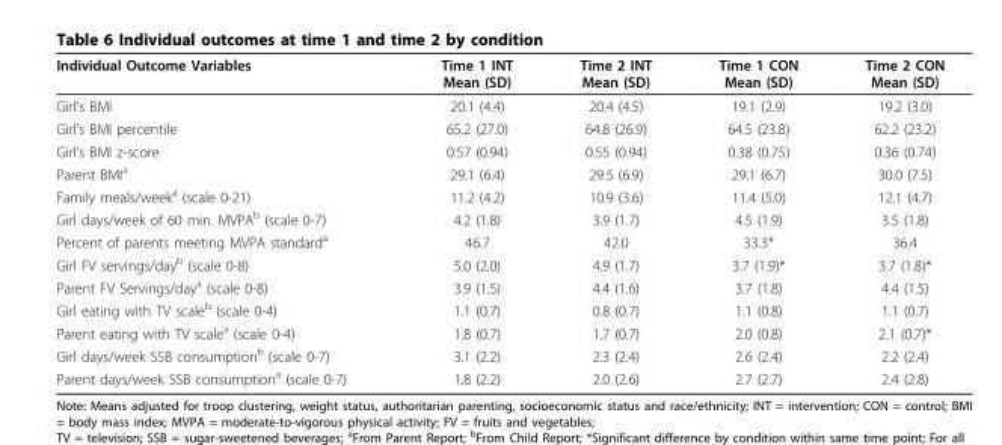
<table><thead><tr><td>Individual Outcome Variables</td><td>Time 1 INT Mean (SD)</td><td>Time 2 INT Mean (SD)</td><td>Time 1 CON Mean (SD)</td><td>Time 2 CON Mean (SD)</td></tr></thead><tbody><tr><td>Girl’s BMI</td><td>20.1 (4.4)</td><td>20.4 (4.5)</td><td>19.1 (2.9)</td><td>19.2 (3.0)</td></tr><tr><td>Girl’s BMI percentile</td><td>65.2 (27.0)</td><td>64.8 (26.9)</td><td>64.5 (23.8)</td><td>62.2 (23.2)</td></tr><tr><td>Girl’s BMI z-score</td><td>0.57 (0.94)</td><td>0.55 (0.94)</td><td>0.38 (0.75)</td><td>0.36 (0.74)</td></tr><tr><td>Parent BMI<sup>a</sup></td><td>29.1 (6.4)</td><td>29.5 (6.9)</td><td>29.1 (6.7)</td><td>30.0 (7.5)</td></tr><tr><td>Family meals/week<sup>a</sup> (scale 0-21)</td><td>11.2 (4.2)</td><td>10.9 (3.6)</td><td>11.4 (5.0)</td><td>12.1 (4.7)</td></tr><tr><td>Girl days/week of 60 min. MVPA<sup>b</sup> (scale 0-7)</td><td>4.2 (1.8)</td><td>3.9 (1.7)</td><td>4.5 (1.9)</td><td>3.5 (1.8)</td></tr><tr><td>Percent of parents meeting MVPA standard<sup>a</sup></td><td>46.7</td><td>42.0</td><td>33.3*</td><td>36.4</td></tr><tr><td>Girl FV servings/day<sup>b</sup> (scale 0-8)</td><td>5.0 (2.0)</td><td>4.9 (1.7)</td><td>3.7 (1.9)*</td><td>3.7 (1.8)*</td></tr><tr><td>Parent FV Servings/day<sup>a</sup> (scale 0-8)</td><td>3.9 (1.5)</td><td>4.4 (1.6)</td><td>3.7 (1.8)</td><td>4.4 (1.5)</td></tr><tr><td>Girl eating with TV scale<sup>b</sup> (scale 0-4)</td><td>1.1 (0.7)</td><td>0.8 (0.7)</td><td>1.1 (0.8)</td><td>1.1 (0.7)</td></tr><tr><td>Parent eating with TV scale<sup>a</sup> (scale 0-4)</td><td>1.8 (0.7)</td><td>1.7 (0.7)</td><td>2.0 (0.8)</td><td>2.1 (0.7)*</td></tr><tr><td>Girl days/week SSB consumption<sup>b</sup> (scale 0-7)</td><td>3.1 (2.2)</td><td>2.3 (2.4)</td><td>2.6 (2.4)</td><td>2.2 (2.4)</td></tr><tr><td>Parent days/week SSB consumption<sup>a</sup> (scale 0-7)</td><td>1.8 (2.2)</td><td>2.0 (2.6)</td><td>2.7 (2.7)</td><td>2.4 (2.8)</td></tr></tbody></table>